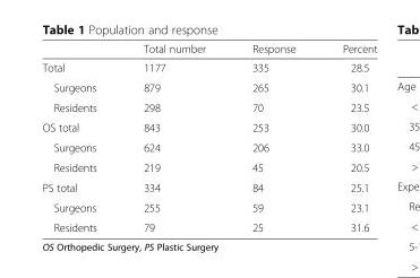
<table><thead><tr><td></td><td>Total number</td><td>Response</td><td>Percent</td></tr></thead><tbody><tr><td>Total</td><td>1177</td><td>335</td><td>28.5</td></tr><tr><td>Surgeons</td><td>879</td><td>265</td><td>30.1</td></tr><tr><td>Residents</td><td>298</td><td>70</td><td>23.5</td></tr><tr><td>OS total</td><td>843</td><td>253</td><td>30.0</td></tr><tr><td>Surgeons</td><td>624</td><td>206</td><td>33.0</td></tr><tr><td>Residents</td><td>219</td><td>45</td><td>20.5</td></tr><tr><td>PS total</td><td>334</td><td>84</td><td>25.1</td></tr><tr><td>Surgeons</td><td>255</td><td>59</td><td>23.1</td></tr><tr><td>Residents</td><td>79</td><td>25</td><td>31.6</td></tr></tbody></table>